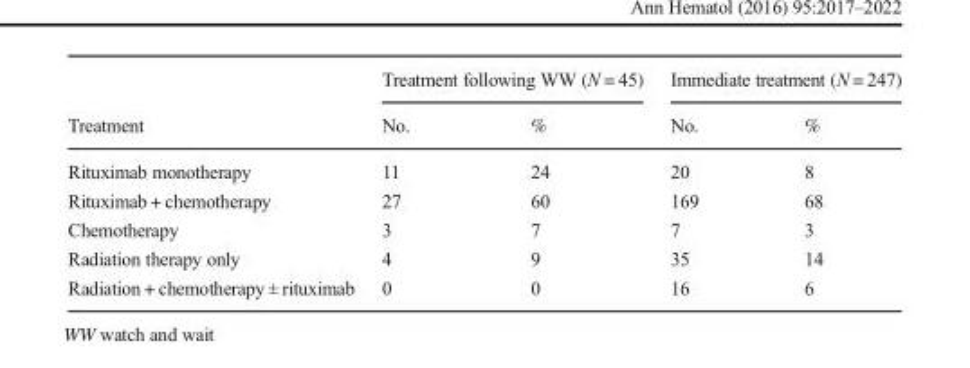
<table><thead><tr><td rowspan="2">Treatment</td><td colspan="2">Treatment following WW (N = 45)</td><td colspan="2">Immediate treatment (N = 247)</td></tr><tr><td>No.</td><td>%</td><td>No.</td><td>%</td></tr></thead><tbody><tr><td>Rituximab monotherapy</td><td>11</td><td>24</td><td>20</td><td>8</td></tr><tr><td>Rituximab + chemotherapy</td><td>27</td><td>60</td><td>169</td><td>68</td></tr><tr><td>Chemotherapy</td><td>3</td><td>7</td><td>7</td><td>3</td></tr><tr><td>Radiation therapy only</td><td>4</td><td>9</td><td>35</td><td>14</td></tr><tr><td>Radiation + chemotherapy ± rituximab</td><td>0</td><td>0</td><td>16</td><td>6</td></tr></tbody></table>